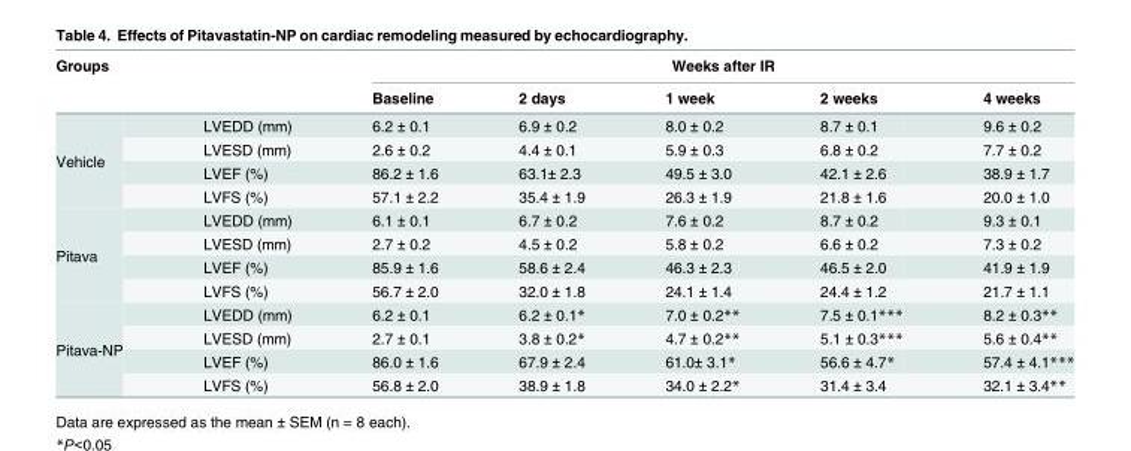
<table><thead><tr><td rowspan="2">Groups</td><td rowspan="2"></td><td colspan="5">Weeks after IR</td></tr><tr><td>Baseline</td><td>2 days</td><td>1 week</td><td>2 weeks</td><td>4 weeks</td></tr></thead><tbody><tr><td rowspan="4">Vehicle</td><td>LVEDD (mm)</td><td>6.2 ± 0.1</td><td>6.9 ± 0.2</td><td>8.0 ± 0.2</td><td>8.7 ± 0.1</td><td>9.6 ± 0.2</td></tr><tr><td>LVESD (mm)</td><td>2.6 ± 0.2</td><td>4.4 ± 0.1</td><td>5.9 ± 0.3</td><td>6.8 ± 0.2</td><td>7.7 ± 0.2</td></tr><tr><td>LVEF (%)</td><td>86.2 ± 1.6</td><td>63.1± 2.3</td><td>49.5 ± 3.0</td><td>42.1 ± 2.6</td><td>38.9 ± 1.7</td></tr><tr><td>LVFS (%)</td><td>57.1 ± 2.2</td><td>35.4 ± 1.9</td><td>26.3 ± 1.9</td><td>21.8 ± 1.6</td><td>20.0 ± 1.0</td></tr><tr><td rowspan="4">Pitava</td><td>LVEDD (mm)</td><td>6.1 ± 0.1</td><td>6.7 ± 0.2</td><td>7.6 ± 0.2</td><td>8.7 ± 0.2</td><td>9.3 ± 0.1</td></tr><tr><td>LVESD (mm)</td><td>2.7 ± 0.2</td><td>4.5 ± 0.2</td><td>5.8 ± 0.2</td><td>6.6 ± 0.2</td><td>7.3 ± 0.2</td></tr><tr><td>LVEF (%)</td><td>85.9 ± 1.6</td><td>58.6 ± 2.4</td><td>46.3 ± 2.3</td><td>46.5 ± 2.0</td><td>41.9 ± 1.9</td></tr><tr><td>LVFS (%)</td><td>56.7 ± 2.0</td><td>32.0 ± 1.8</td><td>24.1 ± 1.4</td><td>24.4 ± 1.2</td><td>21.7 ± 1.1</td></tr><tr><td rowspan="4">Pitava-NP</td><td>LVEDD (mm)</td><td>6.2 ± 0.1</td><td>6.2 ± 0.1*</td><td>7.0 ± 0.2**</td><td>7.5 ± 0.1***</td><td>8.2 ± 0.3**</td></tr><tr><td>LVESD (mm)</td><td>2.7 ± 0.1</td><td>3.8 ± 0.2*</td><td>4.7 ± 0.2**</td><td>5.1 ± 0.3***</td><td>5.6 ± 0.4**</td></tr><tr><td>LVEF (%)</td><td>86.0 ± 1.6</td><td>67.9 ± 2.4</td><td>61.0± 3.1*</td><td>56.6 ± 4.7*</td><td>57.4 ± 4.1***</td></tr><tr><td>LVFS (%)</td><td>56.8 ± 2.0</td><td>38.9 ± 1.8</td><td>34.0 ± 2.2*</td><td>31.4 ± 3.4</td><td>32.1 ± 3.4**</td></tr></tbody></table>